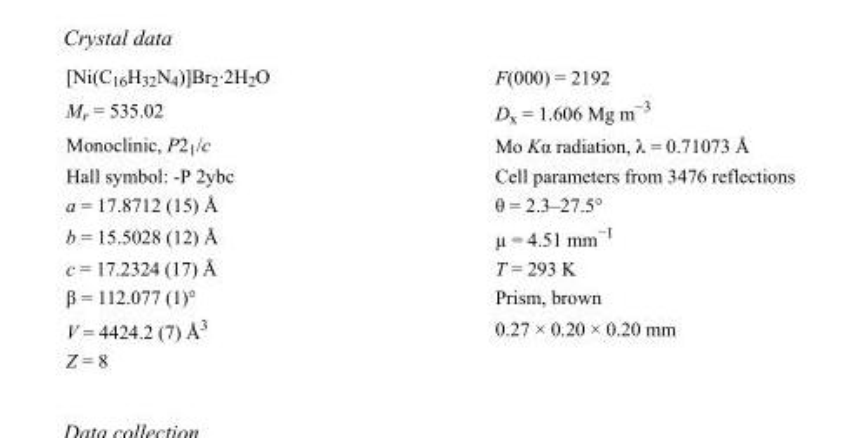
<table><tbody><tr><td>[Ni(C<sub>16</sub>H<sub>32</sub>N<sub>4</sub>)]Br<sub>2</sub>·2H<sub>2</sub>O</td><td>F(000) = 2192</td></tr><tr><td>M<sub>r</sub> = 535.02</td><td>D<sub>x</sub> = 1.606 Mg m<sup>−3</sup></td></tr><tr><td>Monoclinic, P2<sub>1</sub>/c</td><td>Mo Kα radiation, λ = 0.71073 Å</td></tr><tr><td>Hall symbol: -P 2ybc</td><td>Cell parameters from 3476 reflections</td></tr><tr><td>a = 17.8712 (15) Å</td><td>θ = 2.3–27.5°</td></tr><tr><td>b = 15.5028 (12) Å</td><td>µ = 4.51 mm<sup>−1</sup></td></tr><tr><td>c = 17.2324 (17) Å</td><td>T = 293 K</td></tr><tr><td>β = 112.077 (1)°</td><td>Prism, brown</td></tr><tr><td>V = 4424.2 (7) Å<sup>3</sup></td><td>0.27 × 0.20 × 0.20 mm</td></tr><tr><td>Z = 8</td><td></td></tr></tbody></table>